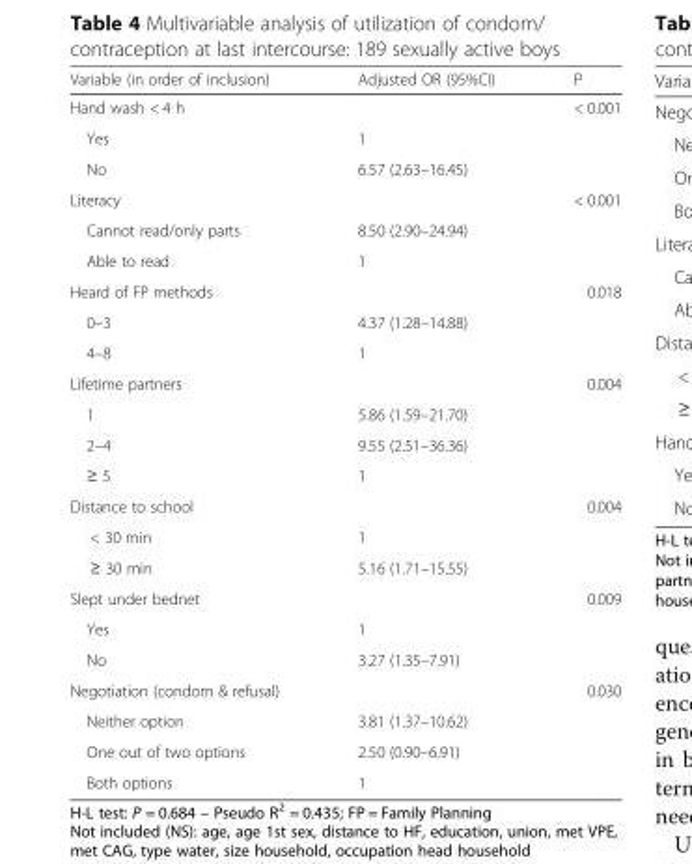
<table><thead><tr><td>Variable (in order of inclusion)</td><td>Adjusted OR (95%CI)</td><td>P</td></tr></thead><tbody><tr><td>Hand wash &lt; 4 h</td><td></td><td>&lt; 0.001</td></tr><tr><td>Yes</td><td>1</td><td rowspan="2"></td></tr><tr><td>No</td><td>6.57 (2.63–16.45)</td></tr><tr><td>Literacy</td><td></td><td>&lt; 0.001</td></tr><tr><td>Cannot read/only parts</td><td>8.50 (2.90–24.94)</td><td rowspan="2"></td></tr><tr><td>Able to read</td><td>1</td></tr><tr><td>Heard of FP methods</td><td></td><td>0.018</td></tr><tr><td>0–3</td><td>4.37 (1.28–14.88)</td><td rowspan="2"></td></tr><tr><td>4–8</td><td>1</td></tr><tr><td>Lifetime partners</td><td></td><td>0.004</td></tr><tr><td>1</td><td>5.86 (1.59–21.70)</td><td rowspan="3"></td></tr><tr><td>2–4</td><td>9.55 (2.51–36.36)</td></tr><tr><td>≥ 5</td><td>1</td></tr><tr><td>Distance to school</td><td></td><td>0.004</td></tr><tr><td>&lt; 30 min</td><td>1</td><td rowspan="2"></td></tr><tr><td>≥ 30 min</td><td>5.16 (1.71–15.55)</td></tr><tr><td>Slept under bednet</td><td></td><td>0.009</td></tr><tr><td>Yes</td><td>1</td><td rowspan="2"></td></tr><tr><td>No</td><td>3.27 (1.35–7.91)</td></tr><tr><td>Negotiation (condom &amp; refusal)</td><td></td><td>0.030</td></tr><tr><td>Neither option</td><td>3.81 (1.37–10.62)</td><td rowspan="3"></td></tr><tr><td>One out of two options</td><td>2.50 (0.90–6.91)</td></tr><tr><td>Both options</td><td>1</td></tr></tbody></table>